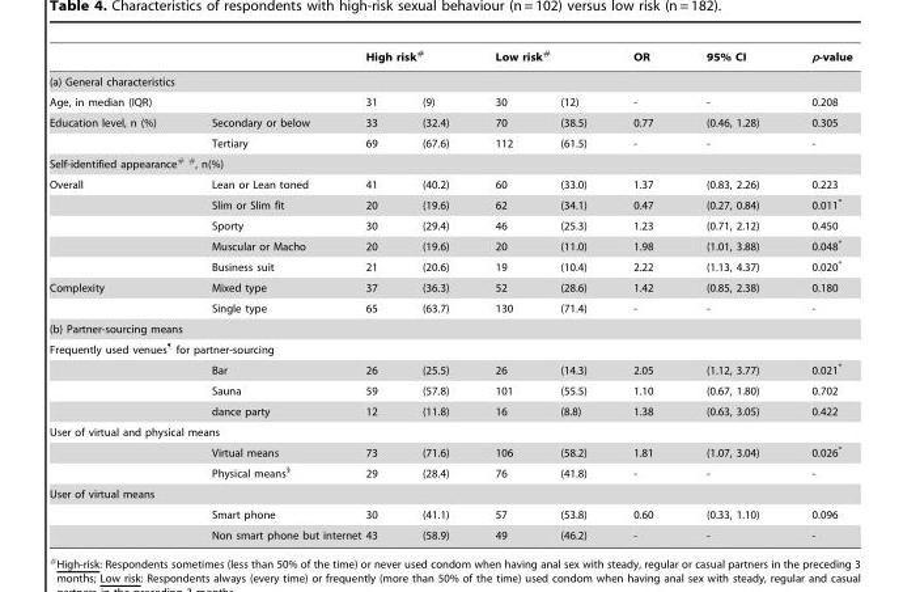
<table><thead><tr><td></td><td></td><td colspan="2">High risk#</td><td colspan="2">Low risk#</td><td>OR</td><td>95% CI</td><td>p-value</td></tr><tr><td colspan="9">(a) General characteristics</td></tr><tr><td colspan="2">Age, in median (IQR)</td><td>31</td><td>(9)</td><td>30</td><td>(12)</td><td>-</td><td>-</td><td>0.208</td></tr></thead><tbody><tr><td rowspan="2">Education level, n (%)</td><td>Secondary or below</td><td>33</td><td>(32.4)</td><td>70</td><td>(38.5)</td><td>0.77</td><td>(0.46, 1.28)</td><td>0.305</td></tr><tr><td>Tertiary</td><td>69</td><td>(67.6)</td><td>112</td><td>(61.5)</td><td>-</td><td>-</td><td>-</td></tr><tr><td colspan="9">Self-identified appearance# #, n(%)</td></tr><tr><td rowspan="5">Overall</td><td>Lean or Lean toned</td><td>41</td><td>(40.2)</td><td>60</td><td>(33.0)</td><td>1.37</td><td>(0.83, 2.26)</td><td>0.223</td></tr><tr><td>Slim or Slim fit</td><td>20</td><td>(19.6)</td><td>62</td><td>(34.1)</td><td>0.47</td><td>(0.27, 0.84)</td><td>0.011*</td></tr><tr><td>Sporty</td><td>30</td><td>(29.4)</td><td>46</td><td>(25.3)</td><td>1.23</td><td>(0.71, 2.12)</td><td>0.450</td></tr><tr><td>Muscular or Macho</td><td>20</td><td>(19.6)</td><td>20</td><td>(11.0)</td><td>1.98</td><td>(1.01, 3.88)</td><td>0.048*</td></tr><tr><td>Business suit</td><td>21</td><td>(20.6)</td><td>19</td><td>(10.4)</td><td>2.22</td><td>(1.13, 4.37)</td><td>0.020*</td></tr><tr><td rowspan="2">Complexity</td><td>Mixed type</td><td>37</td><td>(36.3)</td><td>52</td><td>(28.6)</td><td>1.42</td><td>(0.85, 2.38)</td><td>0.180</td></tr><tr><td>Single type</td><td>65</td><td>(63.7)</td><td>130</td><td>(71.4)</td><td>-</td><td>-</td><td>-</td></tr><tr><td colspan="9">(b) Partner-sourcing means</td></tr><tr><td colspan="9">Frequently used venues¶ for partner-sourcing</td></tr><tr><td></td><td>Bar</td><td>26</td><td>(25.5)</td><td>26</td><td>(14.3)</td><td>2.05</td><td>(1.12, 3.77)</td><td>0.021*</td></tr><tr><td></td><td>Sauna</td><td>59</td><td>(57.8)</td><td>101</td><td>(55.5)</td><td>1.10</td><td>(0.67, 1.80)</td><td>0.702</td></tr><tr><td></td><td>dance party</td><td>12</td><td>(11.8)</td><td>16</td><td>(8.8)</td><td>1.38</td><td>(0.63, 3.05)</td><td>0.422</td></tr><tr><td colspan="9">User of virtual and physical means</td></tr><tr><td></td><td>Virtual means</td><td>73</td><td>(71.6)</td><td>106</td><td>(58.2)</td><td>1.81</td><td>(1.07, 3.04)</td><td>0.026*</td></tr><tr><td></td><td>Physical means§</td><td>29</td><td>(28.4)</td><td>76</td><td>(41.8)</td><td>-</td><td>-</td><td>-</td></tr><tr><td colspan="9">User of virtual means</td></tr><tr><td></td><td>Smart phone</td><td>30</td><td>(41.1)</td><td>57</td><td>(53.8)</td><td>0.60</td><td>(0.33, 1.10)</td><td>0.096</td></tr><tr><td></td><td>Non smart phone but internet</td><td>43</td><td>(58.9)</td><td>49</td><td>(46.2)</td><td>-</td><td>-</td><td>-</td></tr></tbody></table>